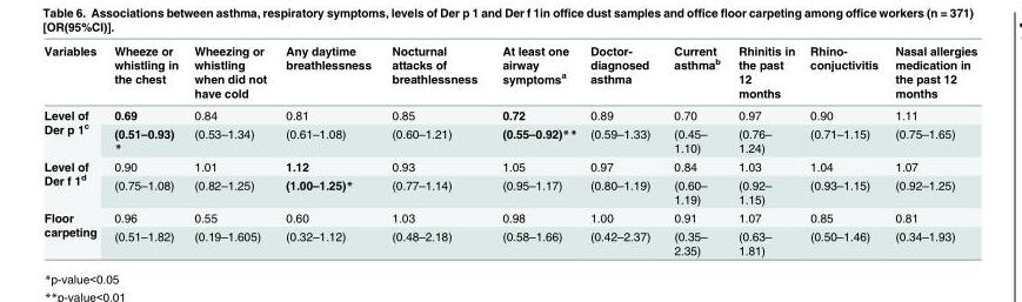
<table><thead><tr><td>Variables</td><td>Wheeze or whistling in the chest</td><td>Wheezing or whistling when did not have cold</td><td>Any daytime breathlessness</td><td>Nocturnal attacks of breathlessness</td><td>At least one airway symptoms<sup>a</sup></td><td>Doctor- diagnosed asthma</td><td>Current asthma<sup>b</sup></td><td>Rhinitis in the past 12 months</td><td>Rhino- conjuctivitis</td><td>Nasal allergies medication in the past 12 months</td></tr></thead><tbody><tr><td rowspan="2">Level of Der p 1<sup>c</sup></td><td>0.69</td><td>0.84</td><td>0.81</td><td>0.85</td><td>0.72</td><td>0.89</td><td>0.70</td><td>0.97</td><td>0.90</td><td>1.11</td></tr><tr><td>(0.51–0.93) *</td><td>(0.53–1.34)</td><td>(0.61–1.08)</td><td>(0.60–1.21)</td><td>(0.55–0.92)**</td><td>(0.59–1.33)</td><td>(0.45– 1.10)</td><td>(0.76– 1.24)</td><td>(0.71–1.15)</td><td>(0.75–1.65)</td></tr><tr><td rowspan="2">Level of Der f 1<sup>d</sup></td><td>0.90</td><td>1.01</td><td>1.12</td><td>0.93</td><td>1.05</td><td>0.97</td><td>0.84</td><td>1.03</td><td>1.04</td><td>1.07</td></tr><tr><td>(0.75–1.08)</td><td>(0.82–1.25)</td><td>(1.00–1.25)*</td><td>(0.77–1.14)</td><td>(0.95–1.17)</td><td>(0.80–1.19)</td><td>(0.60– 1.19)</td><td>(0.92– 1.15)</td><td>(0.93–1.15)</td><td>(0.92–1.25)</td></tr><tr><td rowspan="2">Floor carpeting</td><td>0.96</td><td>0.55</td><td>0.60</td><td>1.03</td><td>0.98</td><td>1.00</td><td>0.91</td><td>1.07</td><td>0.85</td><td>0.81</td></tr><tr><td>(0.51–1.82)</td><td>(0.19–1.605)</td><td>(0.32–1.12)</td><td>(0.48–2.18)</td><td>(0.58–1.66)</td><td>(0.42–2.37)</td><td>(0.35– 2.35)</td><td>(0.63– 1.81)</td><td>(0.50–1.46)</td><td>(0.34–1.93)</td></tr></tbody></table>